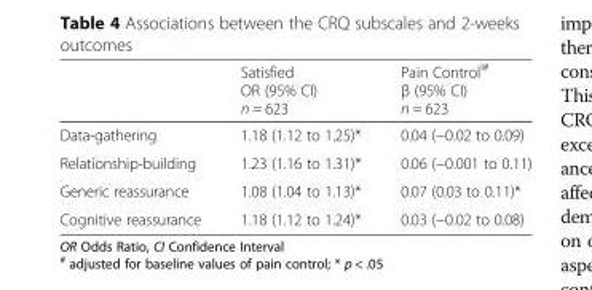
<table><thead><tr><td></td><td>Satisfied OR (95% CI) n = 623</td><td>Pain Control<sup>l#</sup> β (95% CI) n = 623</td></tr></thead><tbody><tr><td>Data-gathering</td><td>1.18 (1.12 to 1.25)*</td><td>0.04 (−0.02 to 0.09)</td></tr><tr><td>Relationship-building</td><td>1.23 (1.16 to 1.31)*</td><td>0.06 (−0.001 to 0.11)</td></tr><tr><td>Generic reassurance</td><td>1.08 (1.04 to 1.13)*</td><td>0.07 (0.03 to 0.11)*</td></tr><tr><td>Cognitive reassurance</td><td>1.18 (1.12 to 1.24)*</td><td>0.03 (−0.02 to 0.08)</td></tr></tbody></table>